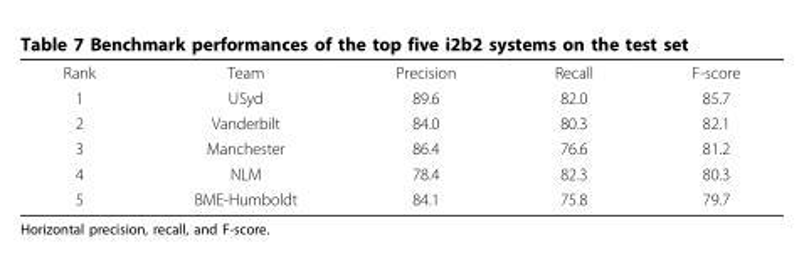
<table><tbody><tr><td>Rank</td><td>Team</td><td>Precision</td><td>Recall</td><td>F-score</td></tr><tr><td>1</td><td>USyd</td><td>89.6</td><td>82.0</td><td>85.7</td></tr><tr><td>2</td><td>Vanderbilt</td><td>84.0</td><td>80.3</td><td>82.1</td></tr><tr><td>3</td><td>Manchester</td><td>86.4</td><td>76.6</td><td>81.2</td></tr><tr><td>4</td><td>NLM</td><td>78.4</td><td>82.3</td><td>80.3</td></tr><tr><td>5</td><td>BME-Humboldt</td><td>84.1</td><td>75.8</td><td>79.7</td></tr></tbody></table>